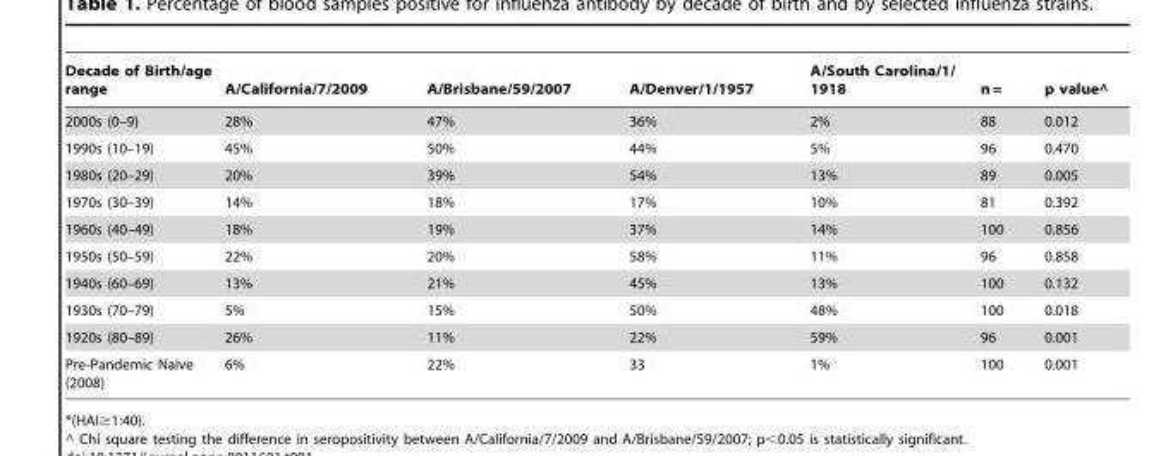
<table><thead><tr><td>Decade of Birth/age range</td><td>A/California/7/2009</td><td>A/Brisbane/59/2007</td><td>A/Denver/1/1957</td><td>A/South Carolina/1/ 1918</td><td>n =</td><td>p value^</td></tr></thead><tbody><tr><td>2000s (0–9)</td><td>28%</td><td>47%</td><td>36%</td><td>2%</td><td>88</td><td>0.012</td></tr><tr><td>1990s (10–19)</td><td>45%</td><td>50%</td><td>44%</td><td>5%</td><td>96</td><td>0.470</td></tr><tr><td>1980s (20–29)</td><td>20%</td><td>39%</td><td>54%</td><td>13%</td><td>89</td><td>0.005</td></tr><tr><td>1970s (30–39)</td><td>14%</td><td>18%</td><td>17%</td><td>10%</td><td>81</td><td>0.392</td></tr><tr><td>1960s (40–49)</td><td>18%</td><td>19%</td><td>37%</td><td>14%</td><td>100</td><td>0.856</td></tr><tr><td>1950s (50–59)</td><td>22%</td><td>20%</td><td>58%</td><td>11%</td><td>96</td><td>0.858</td></tr><tr><td>1940s (60–69)</td><td>13%</td><td>21%</td><td>45%</td><td>13%</td><td>100</td><td>0.132</td></tr><tr><td>1930s (70–79)</td><td>5%</td><td>15%</td><td>50%</td><td>48%</td><td>100</td><td>0.018</td></tr><tr><td>1920s (80–89)</td><td>26%</td><td>11%</td><td>22%</td><td>59%</td><td>96</td><td>0.001</td></tr><tr><td>Pre-Pandemic Naı¨ve (2008)</td><td>6%</td><td>22%</td><td>33</td><td>1%</td><td>100</td><td>0.001</td></tr></tbody></table>